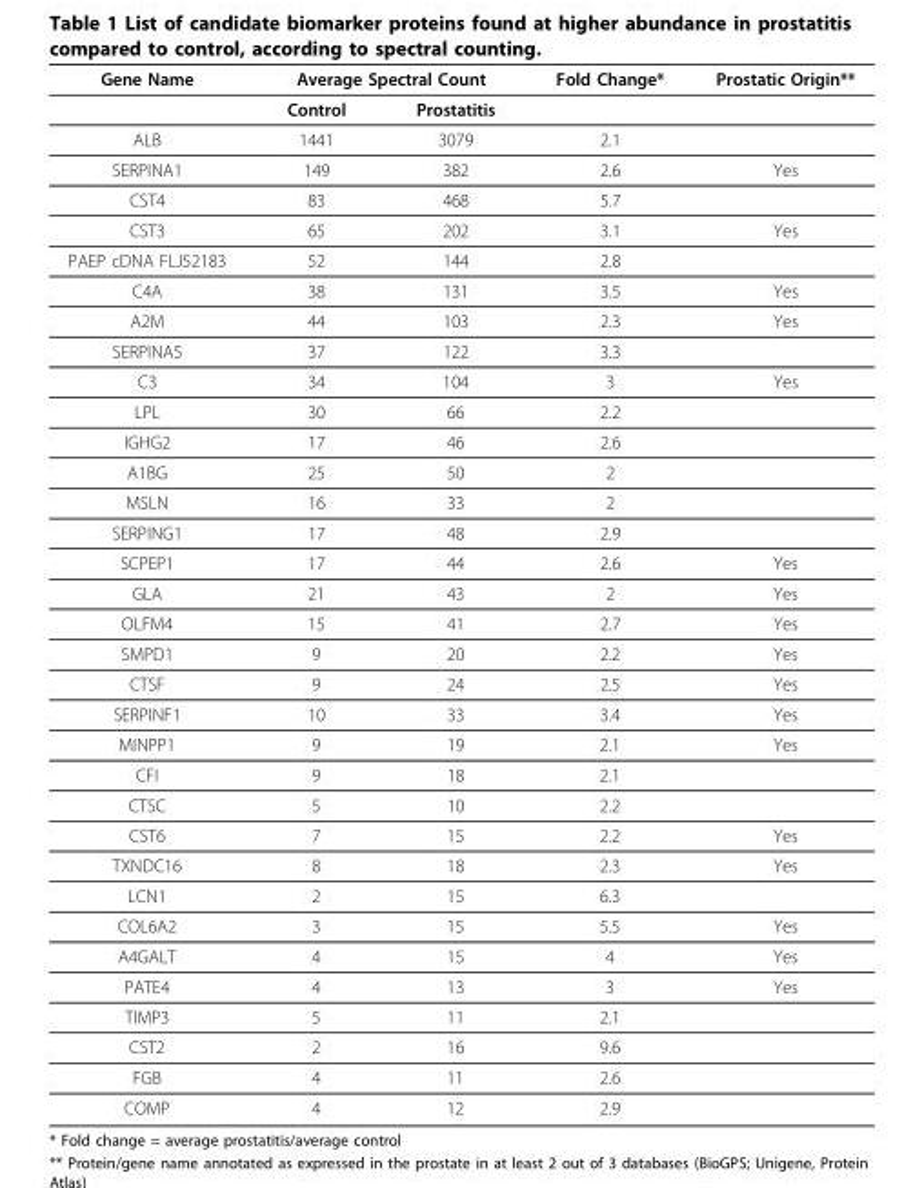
<table><thead><tr><td rowspan="2">Gene Name</td><td colspan="2">Average Spectral Count</td><td rowspan="2">Fold Change*</td><td rowspan="2">Prostatic Origin**</td></tr><tr><td>Control</td><td>Prostatitis</td></tr></thead><tbody><tr><td>ALB</td><td>1441</td><td>3079</td><td>2.1</td><td></td></tr><tr><td>SERPINA1</td><td>149</td><td>382</td><td>2.6</td><td>Yes</td></tr><tr><td>CST4</td><td>83</td><td>468</td><td>5.7</td><td></td></tr><tr><td>CST3</td><td>65</td><td>202</td><td>3.1</td><td>Yes</td></tr><tr><td>PAEP cDNA FLJ52183</td><td>52</td><td>144</td><td>2.8</td><td></td></tr><tr><td>C4A</td><td>38</td><td>131</td><td>3.5</td><td>Yes</td></tr><tr><td>A2M</td><td>44</td><td>103</td><td>2.3</td><td>Yes</td></tr><tr><td>SERPINA5</td><td>37</td><td>122</td><td>3.3</td><td></td></tr><tr><td>C3</td><td>34</td><td>104</td><td>3</td><td>Yes</td></tr><tr><td>LPL</td><td>30</td><td>66</td><td>2.2</td><td></td></tr><tr><td>IGHG2</td><td>17</td><td>46</td><td>2.6</td><td></td></tr><tr><td>A1BG</td><td>25</td><td>50</td><td>2</td><td></td></tr><tr><td>MSLN</td><td>16</td><td>33</td><td>2</td><td></td></tr><tr><td>SERPING1</td><td>17</td><td>48</td><td>2.9</td><td></td></tr><tr><td>SCPEP1</td><td>17</td><td>44</td><td>2.6</td><td>Yes</td></tr><tr><td>GLA</td><td>21</td><td>43</td><td>2</td><td>Yes</td></tr><tr><td>OLFM4</td><td>15</td><td>41</td><td>2.7</td><td>Yes</td></tr><tr><td>SMPD1</td><td>9</td><td>20</td><td>2.2</td><td>Yes</td></tr><tr><td>CTSF</td><td>9</td><td>24</td><td>2.5</td><td>Yes</td></tr><tr><td>SERPINF1</td><td>10</td><td>33</td><td>3.4</td><td>Yes</td></tr><tr><td>MINPP1</td><td>9</td><td>19</td><td>2.1</td><td>Yes</td></tr><tr><td>CFI</td><td>9</td><td>18</td><td>2.1</td><td></td></tr><tr><td>CTSC</td><td>5</td><td>10</td><td>2.2</td><td></td></tr><tr><td>CST6</td><td>7</td><td>15</td><td>2.2</td><td>Yes</td></tr><tr><td>TXNDC16</td><td>8</td><td>18</td><td>2.3</td><td>Yes</td></tr><tr><td>LCN1</td><td>2</td><td>15</td><td>6.3</td><td></td></tr><tr><td>COL6A2</td><td>3</td><td>15</td><td>5.5</td><td>Yes</td></tr><tr><td>A4GALT</td><td>4</td><td>15</td><td>4</td><td>Yes</td></tr><tr><td>PATE4</td><td>4</td><td>13</td><td>3</td><td>Yes</td></tr><tr><td>TIMP3</td><td>5</td><td>11</td><td>2.1</td><td></td></tr><tr><td>CST2</td><td>2</td><td>16</td><td>9.6</td><td></td></tr><tr><td>FGB</td><td>4</td><td>11</td><td>2.6</td><td></td></tr><tr><td>COMP</td><td>4</td><td>12</td><td>2.9</td><td></td></tr></tbody></table>